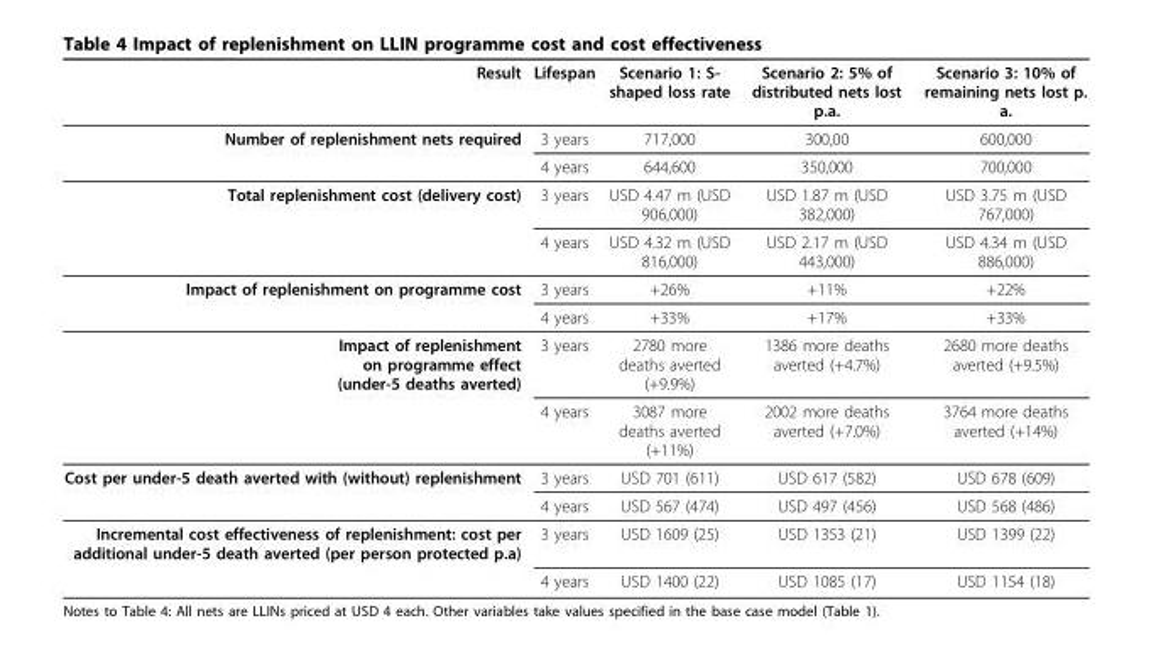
<table><thead><tr><td>Result</td><td>Lifespan</td><td>Scenario 1: S- shaped loss rate</td><td>Scenario 2: 5% of distributed nets lost p.a.</td><td>Scenario 3: 10% of remaining nets lost p. a.</td></tr></thead><tbody><tr><td rowspan="2">Number of replenishment nets required</td><td>3 years</td><td>717,000</td><td>300,00</td><td>600,000</td></tr><tr><td>4 years</td><td>644,600</td><td>350,000</td><td>700,000</td></tr><tr><td rowspan="2">Total replenishment cost (delivery cost)</td><td>3 years</td><td>USD 4.47 m (USD 906,000)</td><td>USD 1.87 m (USD 382,000)</td><td>USD 3.75 m (USD 767,000)</td></tr><tr><td>4 years</td><td>USD 4.32 m (USD 816,000)</td><td>USD 2.17 m (USD 443,000)</td><td>USD 4.34 m (USD 886,000)</td></tr><tr><td rowspan="2">Impact of replenishment on programme cost</td><td>3 years</td><td>+26%</td><td>+11%</td><td>+22%</td></tr><tr><td>4 years</td><td>+33%</td><td>+17%</td><td>+33%</td></tr><tr><td rowspan="2">Impact of replenishment on programme effect (under-5 deaths averted)</td><td>3 years</td><td>2780 more deaths averted (+9.9%)</td><td>1386 more deaths averted (+4.7%)</td><td>2680 more deaths averted (+9.5%)</td></tr><tr><td>4 years</td><td>3087 more deaths averted (+11%)</td><td>2002 more deaths averted (+7.0%)</td><td>3764 more deaths averted (+14%)</td></tr><tr><td rowspan="2">Cost per under-5 death averted with (without) replenishment</td><td>3 years</td><td>USD 701 (611)</td><td>USD 617 (582)</td><td>USD 678 (609)</td></tr><tr><td>4 years</td><td>USD 567 (474)</td><td>USD 497 (456)</td><td>USD 568 (486)</td></tr><tr><td rowspan="2">Incremental cost effectiveness of replenishment: cost per additional under-5 death averted (per person protected p.a)</td><td>3 years</td><td>USD 1609 (25)</td><td>USD 1353 (21)</td><td>USD 1399 (22)</td></tr><tr><td>4 years</td><td>USD 1400 (22)</td><td>USD 1085 (17)</td><td>USD 1154 (18)</td></tr></tbody></table>